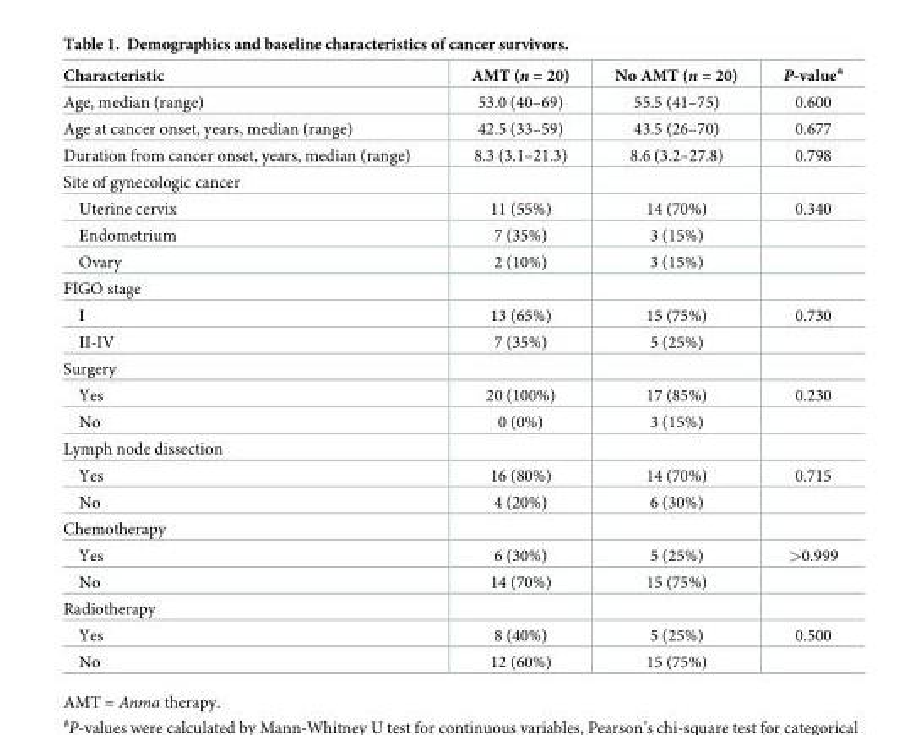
<table><thead><tr><td>Characteristic</td><td>AMT (n = 20)</td><td>No AMT (n = 20)</td><td>P-value<sup>a</sup></td></tr></thead><tbody><tr><td>Age, median (range)</td><td>53.0 (40–69)</td><td>55.5 (41–75)</td><td>0.600</td></tr><tr><td>Age at cancer onset, years, median (range)</td><td>42.5 (33–59)</td><td>43.5 (26–70)</td><td>0.677</td></tr><tr><td>Duration from cancer onset, years, median (range)</td><td>8.3 (3.1–21.3)</td><td>8.6 (3.2–27.8)</td><td>0.798</td></tr><tr><td colspan="4">Site of gynecologic cancer</td></tr><tr><td>Uterine cervix</td><td>11 (55%)</td><td>14 (70%)</td><td>0.340</td></tr><tr><td>Endometrium</td><td>7 (35%)</td><td>3 (15%)</td><td></td></tr><tr><td>Ovary</td><td>2 (10%)</td><td>3 (15%)</td><td></td></tr><tr><td colspan="4">FIGO stage</td></tr><tr><td>I</td><td>13 (65%)</td><td>15 (75%)</td><td>0.730</td></tr><tr><td>II-IV</td><td>7 (35%)</td><td>5 (25%)</td><td></td></tr><tr><td colspan="4">Surgery</td></tr><tr><td>Yes</td><td>20 (100%)</td><td>17 (85%)</td><td>0.230</td></tr><tr><td>No</td><td>0 (0%)</td><td>3 (15%)</td><td></td></tr><tr><td colspan="4">Lymph node dissection</td></tr><tr><td>Yes</td><td>16 (80%)</td><td>14 (70%)</td><td>0.715</td></tr><tr><td>No</td><td>4 (20%)</td><td>6 (30%)</td><td></td></tr><tr><td colspan="4">Chemotherapy</td></tr><tr><td>Yes</td><td>6 (30%)</td><td>5 (25%)</td><td>&gt;0.999</td></tr><tr><td>No</td><td>14 (70%)</td><td>15 (75%)</td><td></td></tr><tr><td colspan="4">Radiotherapy</td></tr><tr><td>Yes</td><td>8 (40%)</td><td>5 (25%)</td><td>0.500</td></tr><tr><td>No</td><td>12 (60%)</td><td>15 (75%)</td><td></td></tr></tbody></table>